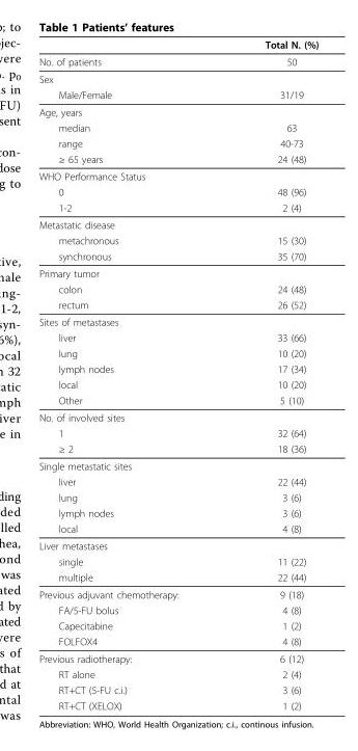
<table><thead><tr><td></td><td>Total N. (%)</td></tr></thead><tbody><tr><td>No. of patients</td><td>50</td></tr><tr><td colspan="2">Sex</td></tr><tr><td>Male/Female</td><td>31/19</td></tr><tr><td colspan="2">Age, years</td></tr><tr><td>median</td><td>63</td></tr><tr><td>range</td><td>40-73</td></tr><tr><td>≥ 65 years</td><td>24 (48)</td></tr><tr><td colspan="2">WHO Performance Status</td></tr><tr><td>0</td><td>48 (96)</td></tr><tr><td>1-2</td><td>2 (4)</td></tr><tr><td colspan="2">Metastatic disease</td></tr><tr><td>metachronous</td><td>15 (30)</td></tr><tr><td>synchronous</td><td>35 (70)</td></tr><tr><td colspan="2">Primary tumor</td></tr><tr><td>colon</td><td>24 (48)</td></tr><tr><td>rectum</td><td>26 (52)</td></tr><tr><td colspan="2">Sites of metastases</td></tr><tr><td>liver</td><td>33 (66)</td></tr><tr><td>lung</td><td>10 (20)</td></tr><tr><td>lymph nodes</td><td>17 (34)</td></tr><tr><td>local</td><td>10 (20)</td></tr><tr><td>Other</td><td>5 (10)</td></tr><tr><td colspan="2">No. of involved sites</td></tr><tr><td>1</td><td>32 (64)</td></tr><tr><td>≥ 2</td><td>18 (36)</td></tr><tr><td colspan="2">Single metastatic sites</td></tr><tr><td>liver</td><td>22 (44)</td></tr><tr><td>lung</td><td>3 (6)</td></tr><tr><td>lymph nodes</td><td>3 (6)</td></tr><tr><td>local</td><td>4 (8)</td></tr><tr><td colspan="2">Liver metastases</td></tr><tr><td>single</td><td>11 (22)</td></tr><tr><td>multiple</td><td>22 (44)</td></tr><tr><td>Previous adjuvant chemotherapy:</td><td>9 (18)</td></tr><tr><td>FA/5-FU bolus</td><td>4 (8)</td></tr><tr><td>Capecitabine</td><td>1 (2)</td></tr><tr><td>FOLFOX4</td><td>4 (8)</td></tr><tr><td>Previous radiotherapy:</td><td>6 (12)</td></tr><tr><td>RT alone</td><td>2 (4)</td></tr><tr><td>RT+CT (5-FU c.i.)</td><td>3 (6)</td></tr><tr><td>RT+CT (XELOX)</td><td>1 (2)</td></tr></tbody></table>